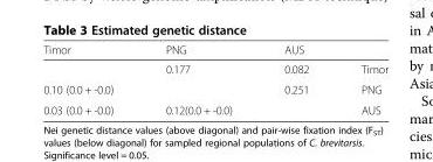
<table><thead><tr><td>Timor</td><td>PNG</td><td>AUS</td><td></td></tr></thead><tbody><tr><td></td><td>0.177</td><td>0.082</td><td>Timor</td></tr><tr><td>0.10 (0.0 + -0.0)</td><td></td><td>0.251</td><td>PNG</td></tr><tr><td>0.03 (0.0 + -0.0)</td><td>0.12(0.0 + -0.0)</td><td></td><td>AUS</td></tr></tbody></table>